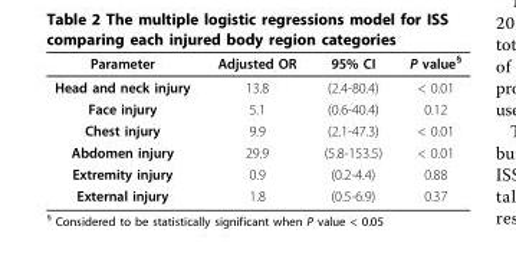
<table><thead><tr><td>Parameter</td><td>Adjusted OR</td><td>95% CI</td><td>P value<sup>§</sup></td></tr></thead><tbody><tr><td>Head and neck injury</td><td>13.8</td><td>(2.4-80.4)</td><td>&lt; 0.01</td></tr><tr><td>Face injury</td><td>5.1</td><td>(0.6-40.4)</td><td>0.12</td></tr><tr><td>Chest injury</td><td>9.9</td><td>(2.1-47.3)</td><td>&lt; 0.01</td></tr><tr><td>Abdomen injury</td><td>29.9</td><td>(5.8-153.5)</td><td>&lt; 0.01</td></tr><tr><td>Extremity injury</td><td>0.9</td><td>(0.2-4.4)</td><td>0.88</td></tr><tr><td>External injury</td><td>1.8</td><td>(0.5-6.9)</td><td>0.37</td></tr></tbody></table>